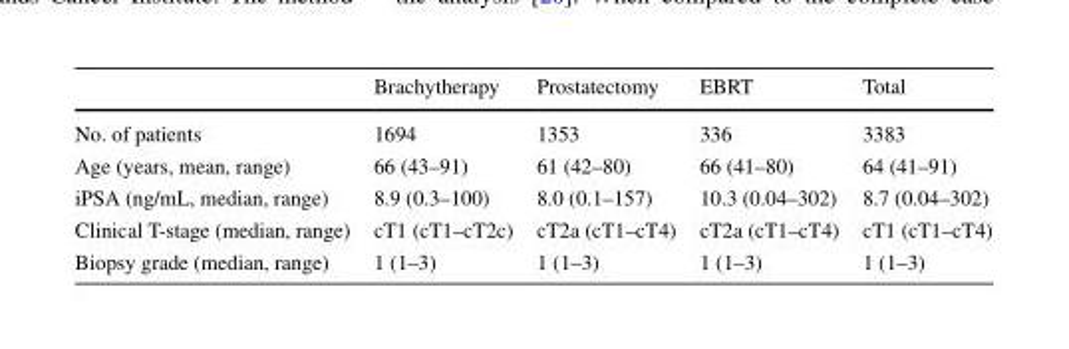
<table><thead><tr><td></td><td>Brachytherapy</td><td>Prostatectomy</td><td>EBRT</td><td>Total</td></tr></thead><tbody><tr><td>No. of patients</td><td>1694</td><td>1353</td><td>336</td><td>3383</td></tr><tr><td>Age (years, mean, range)</td><td>66 (43–91)</td><td>61 (42–80)</td><td>66 (41–80)</td><td>64 (41–91)</td></tr><tr><td>iPSA (ng/mL, median, range)</td><td>8.9 (0.3–100)</td><td>8.0 (0.1–157)</td><td>10.3 (0.04–302)</td><td>8.7 (0.04–302)</td></tr><tr><td>Clinical T-stage (median, range)</td><td>cT1 (cT1–cT2c)</td><td>cT2a (cT1–cT4)</td><td>cT2a (cT1–cT4)</td><td>cT1 (cT1–cT4)</td></tr><tr><td>Biopsy grade (median, range)</td><td>1 (1–3)</td><td>1 (1–3)</td><td>1 (1–3)</td><td>1 (1–3)</td></tr></tbody></table>